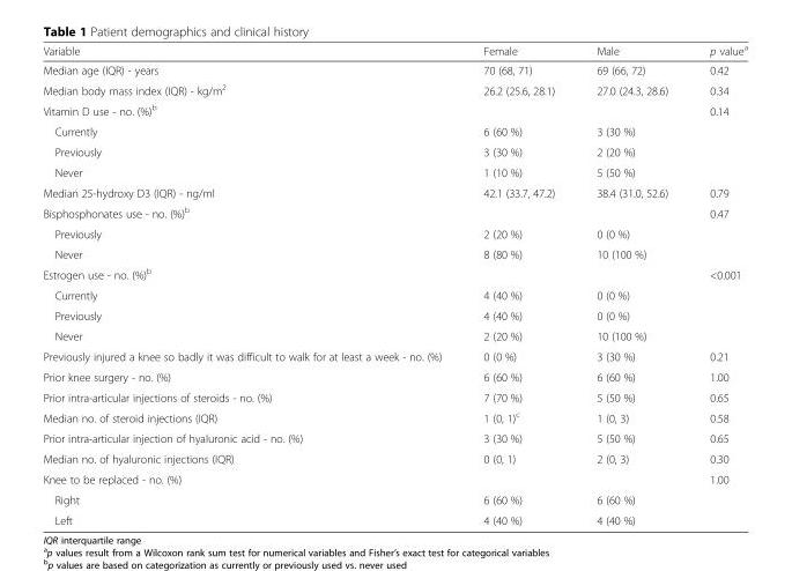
<table><thead><tr><td>Variable</td><td>Female</td><td>Male</td><td>p value<sup>a</sup></td></tr></thead><tbody><tr><td>Median age (IQR) - years</td><td>70 (68, 71)</td><td>69 (66, 72)</td><td>0.42</td></tr><tr><td>Median body mass index (IQR) - kg/m<sup>2</sup></td><td>26.2 (25.6, 28.1)</td><td>27.0 (24.3, 28.6)</td><td>0.34</td></tr><tr><td>Vitamin D use - no. (%)<sup>b</sup></td><td></td><td></td><td>0.14</td></tr><tr><td>Currently</td><td>6 (60 %)</td><td>3 (30 %)</td><td></td></tr><tr><td>Previously</td><td>3 (30 %)</td><td>2 (20 %)</td><td></td></tr><tr><td>Never</td><td>1 (10 %)</td><td>5 (50 %)</td><td></td></tr><tr><td>Median 25-hydroxy D3 (IQR) - ng/ml</td><td>42.1 (33.7, 47.2)</td><td>38.4 (31.0, 52.6)</td><td>0.79</td></tr><tr><td>Bisphosphonates use - no. (%)<sup>b</sup></td><td></td><td></td><td>0.47</td></tr><tr><td>Previously</td><td>2 (20 %)</td><td>0 (0 %)</td><td></td></tr><tr><td>Never</td><td>8 (80 %)</td><td>10 (100 %)</td><td></td></tr><tr><td>Estrogen use - no. (%)<sup>b</sup></td><td></td><td></td><td>&lt;0.001</td></tr><tr><td>Currently</td><td>4 (40 %)</td><td>0 (0 %)</td><td></td></tr><tr><td>Previously</td><td>4 (40 %)</td><td>0 (0 %)</td><td></td></tr><tr><td>Never</td><td>2 (20 %)</td><td>10 (100 %)</td><td></td></tr><tr><td>Previously injured a knee so badly it was difficult to walk for at least a week - no. (%)</td><td>0 (0 %)</td><td>3 (30 %)</td><td>0.21</td></tr><tr><td>Prior knee surgery - no. (%)</td><td>6 (60 %)</td><td>6 (60 %)</td><td>1.00</td></tr><tr><td>Prior intra-articular injections of steroids - no. (%)</td><td>7 (70 %)</td><td>5 (50 %)</td><td>0.65</td></tr><tr><td>Median no. of steroid injections (IQR)</td><td>1 (0, 1)<sup>c</sup></td><td>1 (0, 3)</td><td>0.58</td></tr><tr><td>Prior intra-articular injection of hyaluronic acid - no. (%)</td><td>3 (30 %)</td><td>5 (50 %)</td><td>0.65</td></tr><tr><td>Median no. of hyaluronic injections (IQR)</td><td>0 (0, 1)</td><td>2 (0, 3)</td><td>0.30</td></tr><tr><td>Knee to be replaced - no. (%)</td><td></td><td></td><td>1.00</td></tr><tr><td>Right</td><td>6 (60 %)</td><td>6 (60 %)</td><td></td></tr><tr><td>Left</td><td>4 (40 %)</td><td>4 (40 %)</td><td></td></tr></tbody></table>